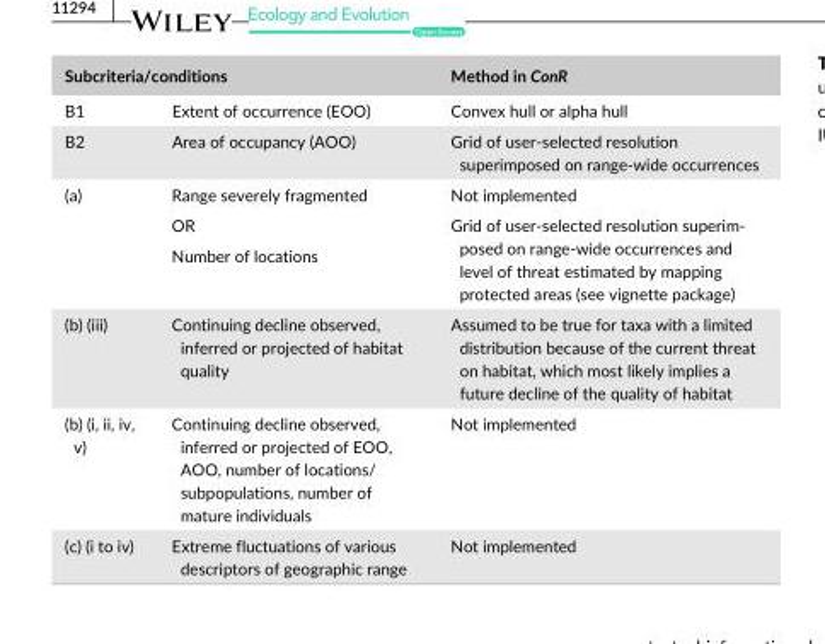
<table><thead><tr><td colspan="2">Subcriteria/conditions</td><td rowspan="2">Method in ConR Convex hull or alpha hull</td></tr><tr><td>B1</td><td>Extent of occurrence (EOO)</td></tr></thead><tbody><tr><td>B2</td><td>Area of occupancy (AOO)</td><td>Grid of user- selected resolution superimposed on range- wide occurrences</td></tr><tr><td rowspan="3">(a)</td><td>Range severely fragmented</td><td>Not implemented</td></tr><tr><td>OR</td><td rowspan="2">Grid of user- selected resolution superim- posed on range- wide occurrences and level of threat estimated by mapping protected areas (see vignette package)</td></tr><tr><td>Number of locations</td></tr><tr><td>(b) (iii)</td><td>Continuing decline observed, inferred or projected of habitat quality</td><td>Assumed to be true for taxa with a limited distribution because of the current threat on habitat, which most likely implies a future decline of the quality of habitat</td></tr><tr><td>(b) (i, ii, iv, v)</td><td>Continuing decline observed, inferred or projected of EOO, AOO, number of locations/ subpopulations, number of mature individuals</td><td>Not implemented</td></tr><tr><td>(c) (i to iv)</td><td>Extreme fluctuations of various descriptors of geographic range</td><td>Not implemented</td></tr></tbody></table>